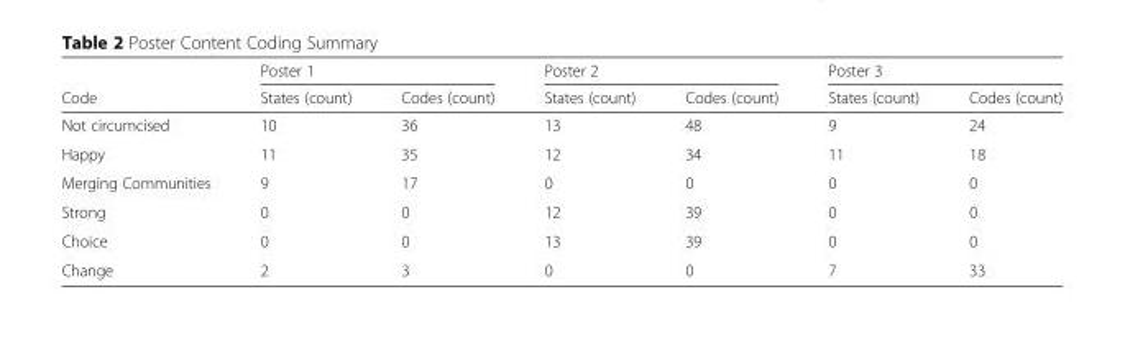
<table><thead><tr><td rowspan="2">Code</td><td colspan="2">Poster 1</td><td colspan="2">Poster 2</td><td colspan="2">Poster 3</td></tr><tr><td>States (count)</td><td>Codes (count)</td><td>States (count)</td><td>Codes (count)</td><td>States (count)</td><td>Codes (count)</td></tr></thead><tbody><tr><td>Not circumcised</td><td>10</td><td>36</td><td>13</td><td>48</td><td>9</td><td>24</td></tr><tr><td>Happy</td><td>11</td><td>35</td><td>12</td><td>34</td><td>11</td><td>18</td></tr><tr><td>Merging Communities</td><td>9</td><td>17</td><td>0</td><td>0</td><td>0</td><td>0</td></tr><tr><td>Strong</td><td>0</td><td>0</td><td>12</td><td>39</td><td>0</td><td>0</td></tr><tr><td>Choice</td><td>0</td><td>0</td><td>13</td><td>39</td><td>0</td><td>0</td></tr><tr><td>Change</td><td>2</td><td>3</td><td>0</td><td>0</td><td>7</td><td>33</td></tr></tbody></table>